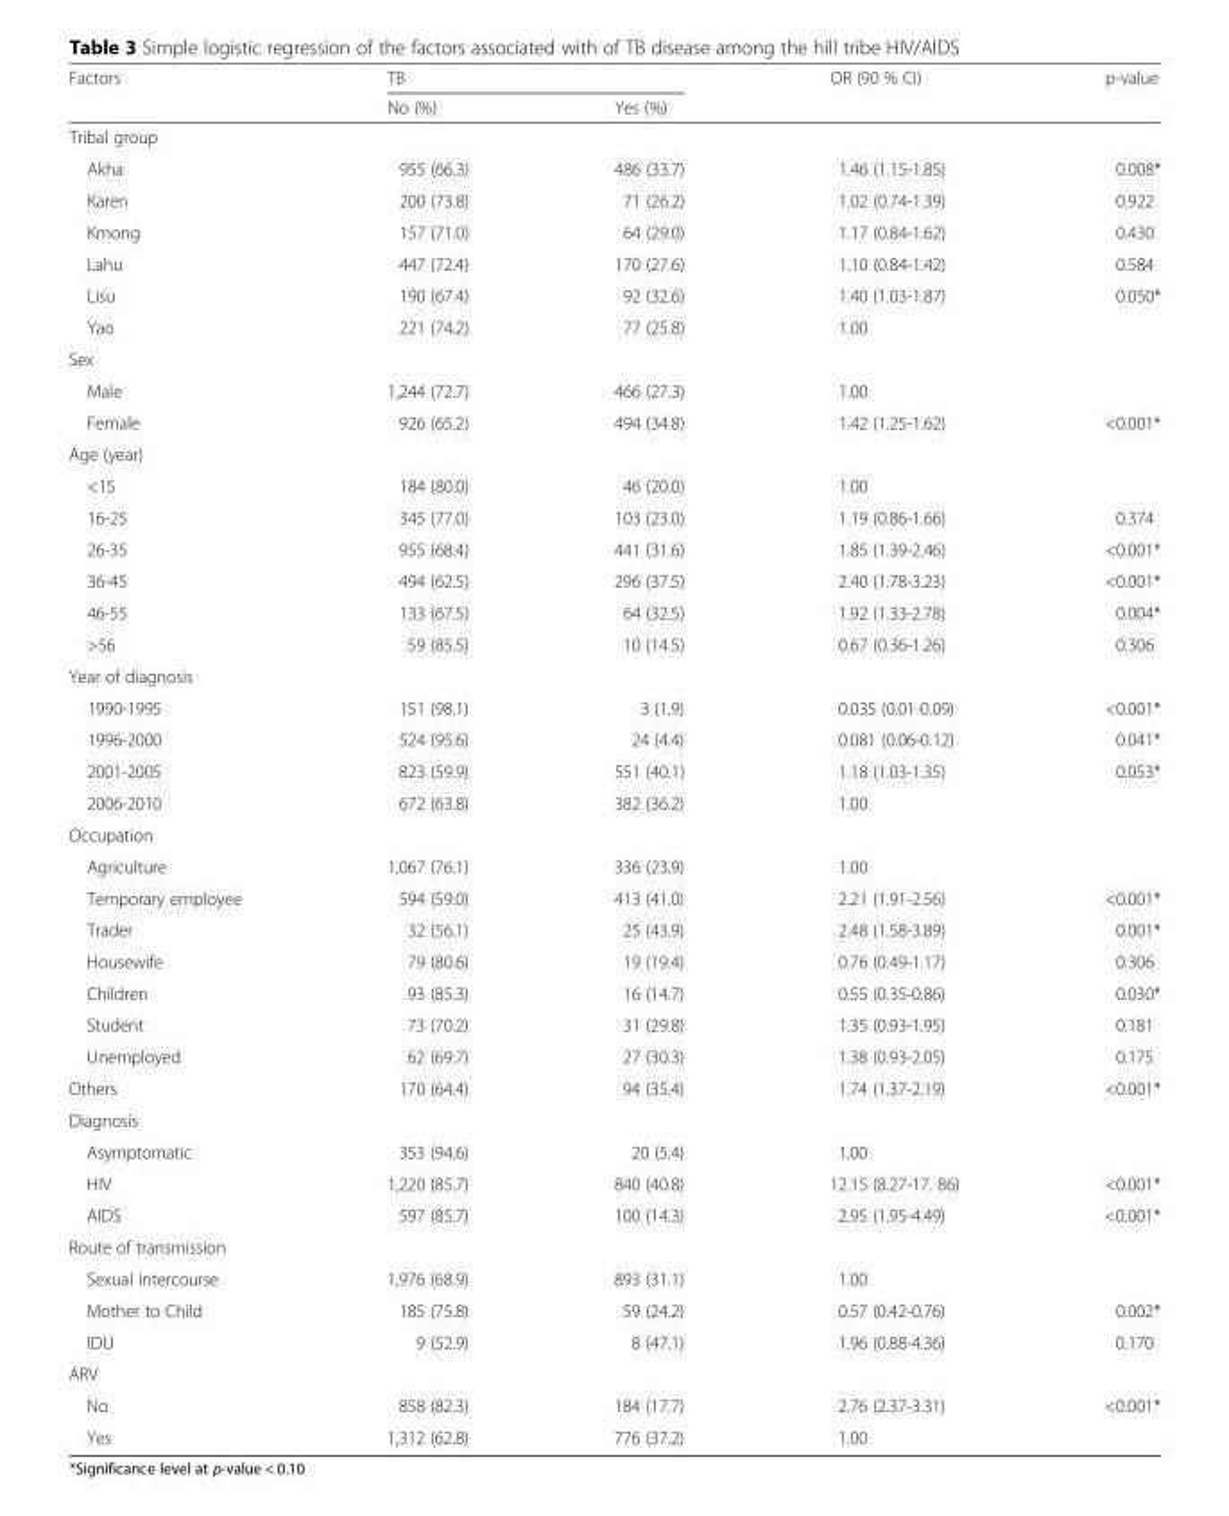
<table><thead><tr><td rowspan="2">Factors</td><td colspan="2">TB</td><td rowspan="2">OR (90 % CI)</td><td rowspan="2">p-value</td></tr><tr><td>No (%)</td><td>Yes (%)</td></tr></thead><tbody><tr><td colspan="5">Tribal group</td></tr><tr><td>Akha</td><td>955 (66.3)</td><td>486 (33.7)</td><td>1.46 (1.15-1.85)</td><td>0.008*</td></tr><tr><td>Karen</td><td>200 (73.8)</td><td>71 (26.2)</td><td>1.02 (0.74-1.39)</td><td>0.922</td></tr><tr><td>Kmong</td><td>157 (71.0)</td><td>64 (29.0)</td><td>1.17 (0.84-1.62)</td><td>0.430</td></tr><tr><td>Lahu</td><td>447 (72.4)</td><td>170 (27.6)</td><td>1.10 (0.84-1.42)</td><td>0.584</td></tr><tr><td>Lisu</td><td>190 (67.4)</td><td>92 (32.6)</td><td>1.40 (1.03-1.87)</td><td>0.050*</td></tr><tr><td>Yao</td><td>221 (74.2)</td><td>77 (25.8)</td><td>1.00</td><td></td></tr><tr><td colspan="5">Sex</td></tr><tr><td>Male</td><td>1,244 (72.7)</td><td>466 (27.3)</td><td>1.00</td><td></td></tr><tr><td>Female</td><td>926 (65.2)</td><td>494 (34.8)</td><td>1.42 (1.25-1.62)</td><td>&lt;0.001*</td></tr><tr><td colspan="5">Age (year)</td></tr><tr><td>&lt;15</td><td>184 (80.0)</td><td>46 (20.0)</td><td>1.00</td><td></td></tr><tr><td>16-25</td><td>345 (77.0)</td><td>103 (23.0)</td><td>1.19 (0.86-1.66)</td><td>0.374</td></tr><tr><td>26-35</td><td>955 (68.4)</td><td>441 (31.6)</td><td>1.85 (1.39-2.46)</td><td>&lt;0.001*</td></tr><tr><td>36-45</td><td>494 (62.5)</td><td>296 (37.5)</td><td>2.40 (1.78-3.23)</td><td>&lt;0.001*</td></tr><tr><td>46-55</td><td>133 (67.5)</td><td>64 (32.5)</td><td>1.92 (1.33-2.78)</td><td>0.004*</td></tr><tr><td>&gt;56</td><td>59 (85.5)</td><td>10 (14.5)</td><td>0.67 (0.36-1.26)</td><td>0.306</td></tr><tr><td colspan="5">Year of diagnosis</td></tr><tr><td>1990-1995</td><td>151 (98.1)</td><td>3 (1.9)</td><td>0.035 (0.01-0.09)</td><td>&lt;0.001*</td></tr><tr><td>1996-2000</td><td>524 (95.6)</td><td>24 (4.4)</td><td>0.081 (0.06-0.12)</td><td>0.041*</td></tr><tr><td>2001-2005</td><td>823 (59.9)</td><td>551 (40.1)</td><td>1.18 (1.03-1.35)</td><td>0.053*</td></tr><tr><td>2006-2010</td><td>672 (63.8)</td><td>382 (36.2)</td><td>1.00</td><td></td></tr><tr><td colspan="5">Occupation</td></tr><tr><td>Agriculture</td><td>1,067 (76.1)</td><td>336 (23.9)</td><td>1.00</td><td></td></tr><tr><td>Temporary employee</td><td>594 (59.0)</td><td>413 (41.0)</td><td>2.21 (1.91-2.56)</td><td>&lt;0.001*</td></tr><tr><td>Trader</td><td>32 (56.1)</td><td>25 (43.9)</td><td>2.48 (1.58-3.89)</td><td>0.001*</td></tr><tr><td>Housewife</td><td>79 (80.6)</td><td>19 (19.4)</td><td>0.76 (0.49-1.17)</td><td>0.306</td></tr><tr><td>Children</td><td>93 (85.3)</td><td>16 (14.7)</td><td>0.55 (0.35-0.86)</td><td>0.030*</td></tr><tr><td>Student</td><td>73 (70.2)</td><td>31 (29.8)</td><td>1.35 (0.93-1.95)</td><td>0.181</td></tr><tr><td>Unemployed</td><td>62 (69.7)</td><td>27 (30.3)</td><td>1.38 (0.93-2.05)</td><td>0.175</td></tr><tr><td>Others</td><td>170 (64.4)</td><td>94 (35.4)</td><td>1.74 (1.37-2.19)</td><td>&lt;0.001*</td></tr><tr><td colspan="5">Diagnosis</td></tr><tr><td>Asymptomatic</td><td>353 (94.6)</td><td>20 (5.4)</td><td>1.00</td><td></td></tr><tr><td>HIV</td><td>1,220 (85.7)</td><td>840 (40.8)</td><td>12.15 (8.27-17. 86)</td><td>&lt;0.001*</td></tr><tr><td>AIDS</td><td>597 (85.7)</td><td>100 (14.3)</td><td>2.95 (1.95-4.49)</td><td>&lt;0.001*</td></tr><tr><td colspan="5">Route of transmission</td></tr><tr><td>Sexual intercourse</td><td>1,976 (68.9)</td><td>893 (31.1)</td><td>1.00</td><td></td></tr><tr><td>Mother to Child</td><td>185 (75.8)</td><td>59 (24.2)</td><td>0.57 (0.42-0.76)</td><td>0.002*</td></tr><tr><td>IDU</td><td>9 (52.9)</td><td>8 (47.1)</td><td>1.96 (0.88-4.36)</td><td>0.170</td></tr><tr><td colspan="5">ARV</td></tr><tr><td>No</td><td>858 (82.3)</td><td>184 (17.7)</td><td>2.76 (2.37-3.31)</td><td>&lt;0.001*</td></tr><tr><td>Yes</td><td>1,312 (62.8)</td><td>776 (37.2)</td><td>1.00</td><td></td></tr></tbody></table>